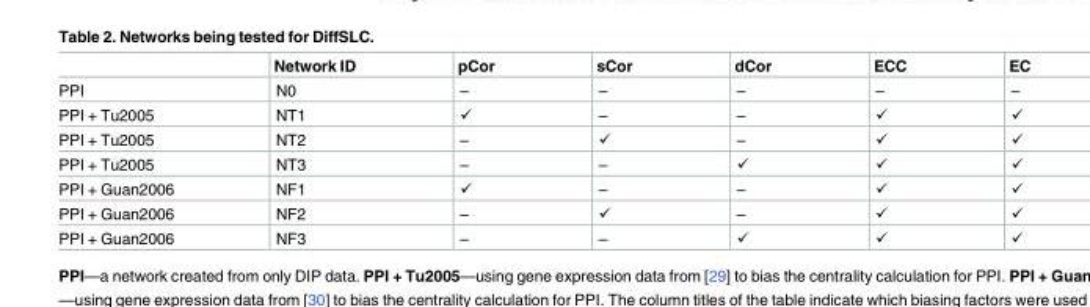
<table><thead><tr><td></td><td>Network ID</td><td>pCor</td><td>sCor</td><td>dCor</td><td>ECC</td><td>EC</td></tr></thead><tbody><tr><td>PPI</td><td>N0</td><td>–</td><td>–</td><td>–</td><td>–</td><td>–</td></tr><tr><td>PPI + Tu2005</td><td>NT1</td><td>✓</td><td>–</td><td>–</td><td>✓</td><td>✓</td></tr><tr><td>PPI + Tu2005</td><td>NT2</td><td>–</td><td>✓</td><td>–</td><td>✓</td><td>✓</td></tr><tr><td>PPI + Tu2005</td><td>NT3</td><td>–</td><td>–</td><td>✓</td><td>✓</td><td>✓</td></tr><tr><td>PPI + Guan2006</td><td>NF1</td><td>✓</td><td>–</td><td>–</td><td>✓</td><td>✓</td></tr><tr><td>PPI + Guan2006</td><td>NF2</td><td>–</td><td>✓</td><td>–</td><td>✓</td><td>✓</td></tr><tr><td>PPI + Guan2006</td><td>NF3</td><td>–</td><td>–</td><td>✓</td><td>✓</td><td>✓</td></tr></tbody></table>